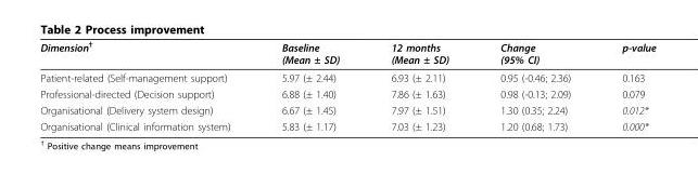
<table><thead><tr><td>Dimension<sup>†</sup></td><td>Baseline (Mean ± SD)</td><td>12 months (Mean ± SD)</td><td>Change (95% CI)</td><td>p-value</td></tr></thead><tbody><tr><td>Patient-related (Self-management support)</td><td>5.97 (± 2.44)</td><td>6.93 (± 2.11)</td><td>0.95 (-0.46; 2.36)</td><td>0.163</td></tr><tr><td>Professional-directed (Decision support)</td><td>6.88 (± 1.40)</td><td>7.86 (± 1.63)</td><td>0.98 (-0.13; 2.09)</td><td>0.079</td></tr><tr><td>Organisational (Delivery system design)</td><td>6.67 (± 1.45)</td><td>7.97 (± 1.51)</td><td>1.30 (0.35; 2.24)</td><td>0.012*</td></tr><tr><td>Organisational (Clinical information system)</td><td>5.83 (± 1.17)</td><td>7.03 (± 1.23)</td><td>1.20 (0.68; 1.73)</td><td>0.000*</td></tr></tbody></table>